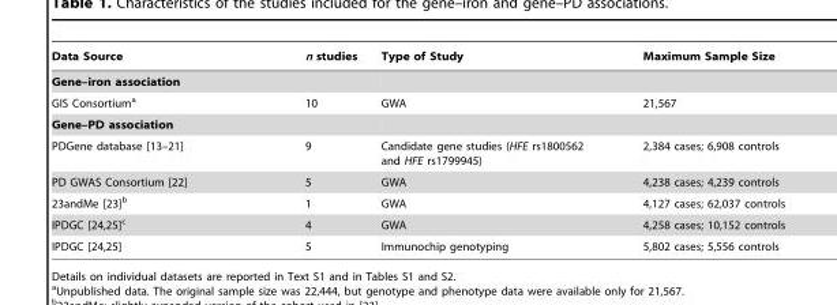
<table><thead><tr><td>Data Source</td><td>n studies</td><td>Type of Study</td><td>Maximum Sample Size</td></tr></thead><tbody><tr><td colspan="4">Gene–iron association</td></tr><tr><td>GIS Consortium<sup>a</sup></td><td>10</td><td>GWA</td><td>21,567</td></tr><tr><td colspan="4">Gene–PD association</td></tr><tr><td>PDGene database [13–21]</td><td>9</td><td>Candidate gene studies (HFE rs1800562 and HFE rs1799945)</td><td>2,384 cases; 6,908 controls</td></tr><tr><td>PD GWAS Consortium [22]</td><td>5</td><td>GWA</td><td>4,238 cases; 4,239 controls</td></tr><tr><td>23andMe [23]b</td><td>1</td><td>GWA</td><td>4,127 cases; 62,037 controls</td></tr><tr><td>IPDGC [24,25]c</td><td>4</td><td>GWA</td><td>4,258 cases; 10,152 controls</td></tr><tr><td>IPDGC [24,25]</td><td>5</td><td>Immunochip genotyping</td><td>5,802 cases; 5,556 controls</td></tr></tbody></table>